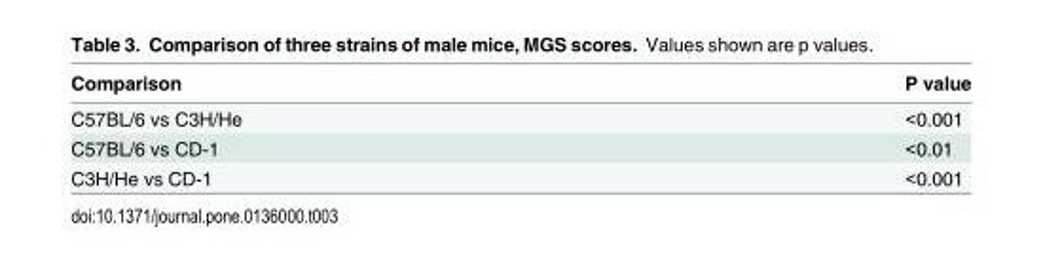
<table><thead><tr><td>Comparison</td><td>P value</td></tr></thead><tbody><tr><td>C57BL/6 vs C3H/He</td><td>&lt;0.001</td></tr><tr><td>C57BL/6 vs CD-1</td><td>&lt;0.01</td></tr><tr><td>C3H/He vs CD-1</td><td>&lt;0.001</td></tr></tbody></table>